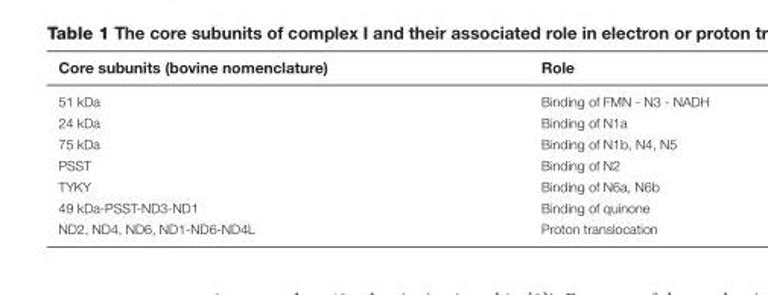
<table><thead><tr><td>Core subunits (bovine nomenclature)</td><td>Role</td></tr></thead><tbody><tr><td>51 kDa</td><td>Binding of FMN - N3 - NADH</td></tr><tr><td>24 kDa</td><td>Binding of N1a</td></tr><tr><td>75 kDa</td><td>Binding of N1b, N4, N5</td></tr><tr><td>PSST</td><td>Binding of N2</td></tr><tr><td>TYKY</td><td>Binding of N6a, N6b</td></tr><tr><td>49 kDa-PSST-ND3-ND1</td><td>Binding of quinone</td></tr><tr><td>ND2, ND4, ND6, ND1-ND6-ND4L</td><td>Proton translocation</td></tr></tbody></table>